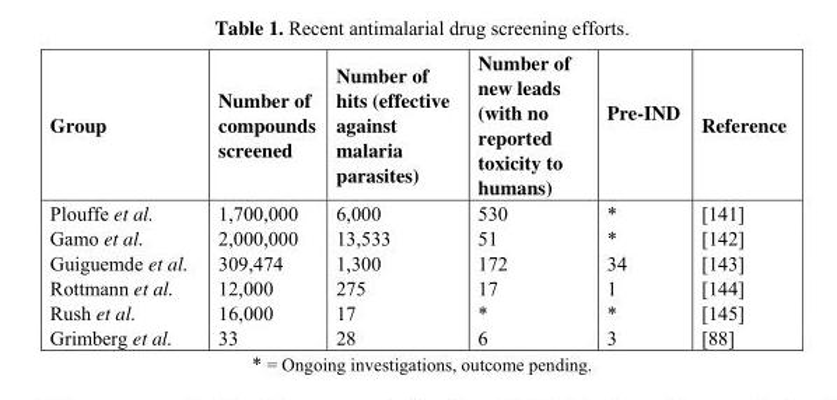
<table><thead><tr><td>Group</td><td>Number of compounds screened</td><td>Number of hits (effective against malaria parasites)</td><td>Number of new leads (with no reported toxicity to humans)</td><td>Pre-IND</td><td>Reference</td></tr></thead><tbody><tr><td>Plouffe et al.</td><td>1,700,000</td><td>6,000</td><td>530</td><td>*</td><td>[141]</td></tr><tr><td>Gamo et al.</td><td>2,000,000</td><td>13,533</td><td>51</td><td>*</td><td>[142]</td></tr><tr><td>Guiguemde et al.</td><td>309,474</td><td>1,300</td><td>172</td><td>34</td><td>[143]</td></tr><tr><td>Rottmann et al.</td><td>12,000</td><td>275</td><td>17</td><td>1</td><td>[144]</td></tr><tr><td>Rush et al.</td><td>16,000</td><td>17</td><td>*</td><td>*</td><td>[145]</td></tr><tr><td>Grimberg et al.</td><td>33</td><td>28</td><td>6</td><td>3</td><td>[88]</td></tr></tbody></table>